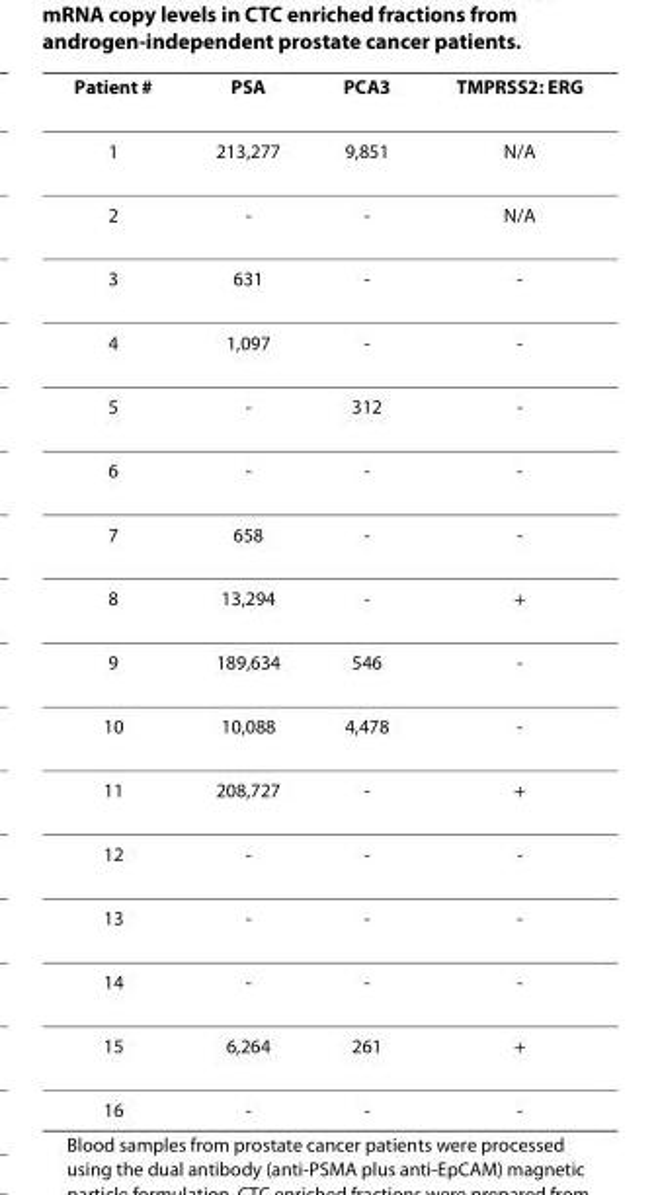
<table><thead><tr><td>Patient #</td><td>PSA</td><td>PCA3</td><td>TMPRSS2: ERG</td></tr></thead><tbody><tr><td>1</td><td>213,277</td><td>9,851</td><td>N/A</td></tr><tr><td>2</td><td>-</td><td>-</td><td>N/A</td></tr><tr><td>3</td><td>631</td><td>-</td><td>-</td></tr><tr><td>4</td><td>1,097</td><td>-</td><td>-</td></tr><tr><td>5</td><td>-</td><td>312</td><td>-</td></tr><tr><td>6</td><td>-</td><td>-</td><td>-</td></tr><tr><td>7</td><td>658</td><td>-</td><td>-</td></tr><tr><td>8</td><td>13,294</td><td>-</td><td>+</td></tr><tr><td>9</td><td>189,634</td><td>546</td><td>-</td></tr><tr><td>10</td><td>10,088</td><td>4,478</td><td>-</td></tr><tr><td>11</td><td>208,727</td><td>-</td><td>+</td></tr><tr><td>12</td><td>-</td><td>-</td><td>-</td></tr><tr><td>13</td><td>-</td><td>-</td><td>-</td></tr><tr><td>14</td><td>-</td><td>-</td><td>-</td></tr><tr><td>15</td><td>6,264</td><td>261</td><td>+</td></tr><tr><td>16</td><td>-</td><td>-</td><td>-</td></tr></tbody></table>